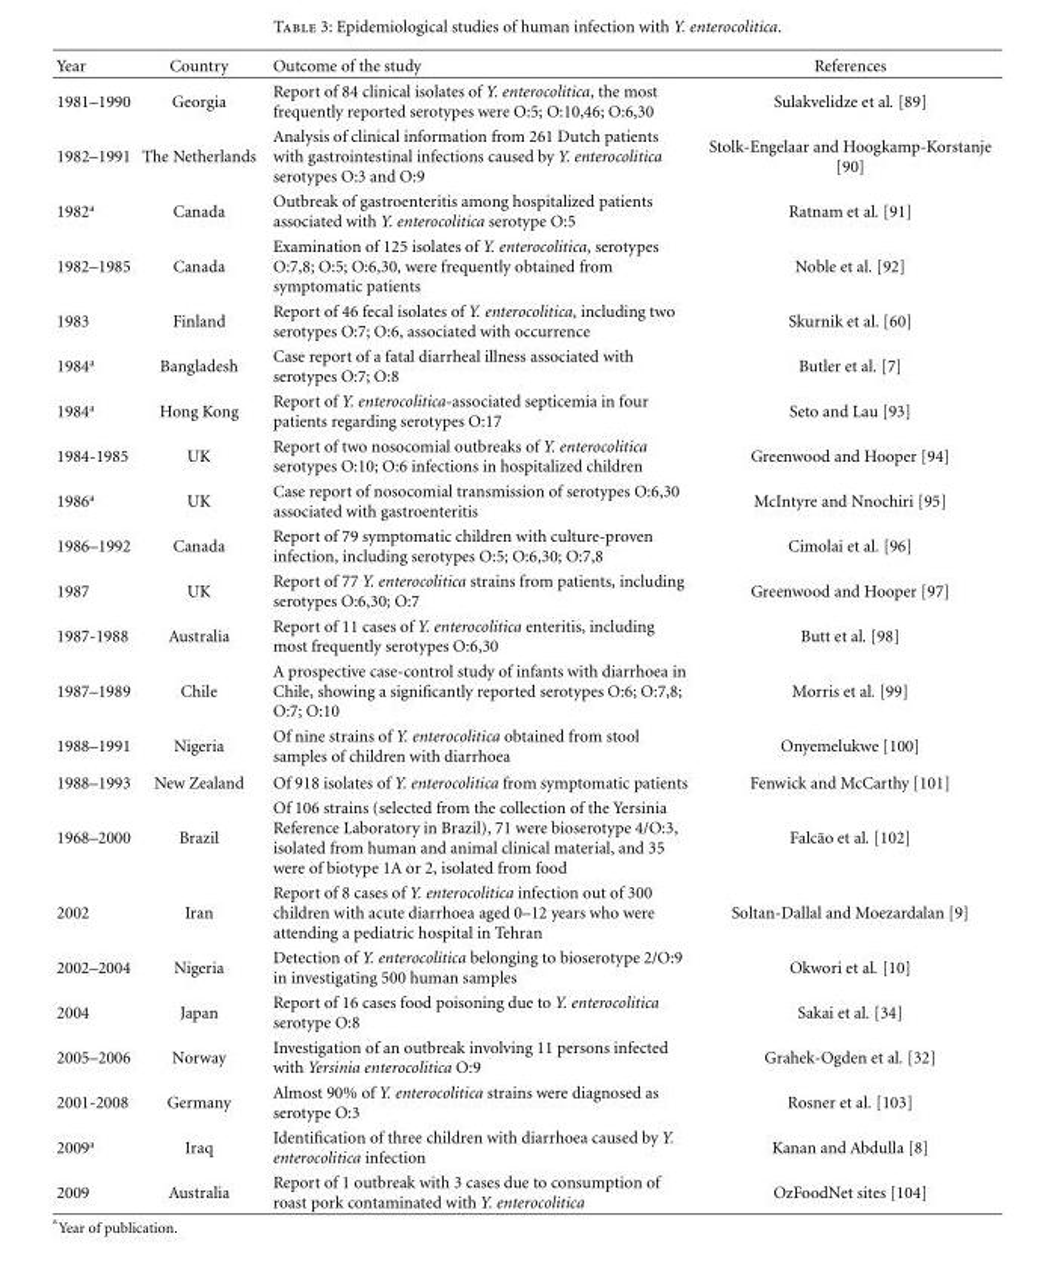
<table><thead><tr><td>Year</td><td>Country</td><td>Outcome of the study</td><td>References</td></tr></thead><tbody><tr><td>1981–1990</td><td>Georgia</td><td>Report of 84 clinical isolates of Y. enterocolitica, the most frequently reported serotypes were O:5; O:10,46; O:6,30</td><td>Sulakvelidze et al. [89]</td></tr><tr><td>1982–1991</td><td>The Netherlands</td><td>Analysis of clinical information from 261 Dutch patients with gastrointestinal infections caused by Y. enterocolitica serotypes O:3 and O:9</td><td>Stolk-Engelaar and Hoogkamp-Korstanje [90]</td></tr><tr><td>1982<sup>a</sup></td><td>Canada</td><td>Outbreak of gastroenteritis among hospitalized patients associated with Y. enterocolitica serotype O:5</td><td>Ratnam et al. [91]</td></tr><tr><td>1982–1985</td><td>Canada</td><td>Examination of 125 isolates of Y. enterocolitica, serotypes O:7,8; O:5; O:6,30, were frequently obtained from symptomatic patients</td><td>Noble et al. [92]</td></tr><tr><td>1983</td><td>Finland</td><td>Report of 46 fecal isolates of Y. enterocolitica, including two serotypes O:7; O:6, associated with occurrence</td><td>Skurnik et al. [60]</td></tr><tr><td>1984<sup>a</sup></td><td>Bangladesh</td><td>Case report of a fatal diarrheal illness associated with serotypes O:7; O:8</td><td>Butler et al. [7]</td></tr><tr><td>1984<sup>a</sup></td><td>Hong Kong</td><td>Report of Y. enterocolitica-associated septicemia in four patients regarding serotypes O:17</td><td>Seto and Lau [93]</td></tr><tr><td>1984-1985</td><td>UK</td><td>Report of two nosocomial outbreaks of Y. enterocolitica serotypes O:10; O:6 infections in hospitalized children</td><td>Greenwood and Hooper [94]</td></tr><tr><td>1986<sup>a</sup></td><td>UK</td><td>Case report of nosocomial transmission of serotypes O:6,30 associated with gastroenteritis</td><td>McIntyre and Nnochiri [95]</td></tr><tr><td>1986–1992</td><td>Canada</td><td>Report of 79 symptomatic children with culture-proven infection, including serotypes O:5; O:6,30; O:7,8</td><td>Cimolai et al. [96]</td></tr><tr><td>1987</td><td>UK</td><td>Report of 77 Y. enterocolitica strains from patients, including serotypes O:6,30; O:7</td><td>Greenwood and Hooper [97]</td></tr><tr><td>1987-1988</td><td>Australia</td><td>Report of 11 cases of Y. enterocolitica enteritis, including most frequently serotypes O:6,30</td><td>Butt et al. [98]</td></tr><tr><td>1987–1989</td><td>Chile</td><td>A prospective case-control study of infants with diarrhoea in Chile, showing a significantly reported serotypes O:6; O:7,8; O:7; O:10</td><td>Morris et al. [99]</td></tr><tr><td>1988–1991</td><td>Nigeria</td><td>Of nine strains of Y. enterocolitica obtained from stool samples of children with diarrhoea</td><td>Onyemelukwe [100]</td></tr><tr><td>1988–1993</td><td>New Zealand</td><td>Of 918 isolates of Y. enterocolitica from symptomatic patients</td><td>Fenwick and McCarthy [101]</td></tr><tr><td>1968–2000</td><td>Brazil</td><td>Of 106 strains (selected from the collection of the Yersinia Reference Laboratory in Brazil), 71 were bioserotype 4/O:3, isolated from human and animal clinical material, and 35 were of biotype 1A or 2, isolated from food</td><td>Falc˜ao et al. [102]</td></tr><tr><td>2002</td><td>Iran</td><td>Report of 8 cases of Y. enterocolitica infection out of 300 children with acute diarrhoea aged 0–12 years who were attending a pediatric hospital in Tehran</td><td>Soltan-Dallal and Moezardalan [9]</td></tr><tr><td>2002–2004</td><td>Nigeria</td><td>Detection of Y. enterocolitica belonging to bioserotype 2/O:9 in investigating 500 human samples</td><td>Okwori et al. [10]</td></tr><tr><td>2004</td><td>Japan</td><td>Report of 16 cases food poisoning due to Y. enterocolitica serotype O:8</td><td>Sakai et al. [34]</td></tr><tr><td>2005–2006</td><td>Norway</td><td>Investigation of an outbreak involving 11 persons infected with Yersinia enterocolitica O:9</td><td>Grahek-Ogden et al. [32]</td></tr><tr><td>2001-2008</td><td>Germany</td><td>Almost 90% of Y. enterocolitica strains were diagnosed as serotype O:3</td><td>Rosner et al. [103]</td></tr><tr><td>2009<sup>a</sup></td><td>Iraq</td><td>Identification of three children with diarrhoea caused by Y. enterocolitica infection</td><td>Kanan and Abdulla [8]</td></tr><tr><td>2009</td><td>Australia</td><td>Report of 1 outbreak with 3 cases due to consumption of roast pork contaminated with Y. enterocolitica</td><td>OzFoodNet sites [104]</td></tr></tbody></table>